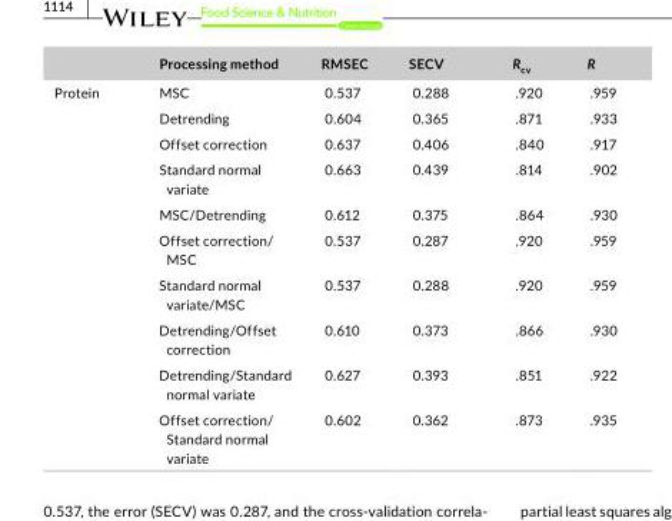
<table><thead><tr><td></td><td>Processing method</td><td>RMSEC</td><td>SECV</td><td>R<sub>cv</sub></td><td>R</td></tr></thead><tbody><tr><td rowspan="10">Protein</td><td>MSC</td><td>0.537</td><td>0.288</td><td>.920</td><td>.959</td></tr><tr><td>Detrending</td><td>0.604</td><td>0.365</td><td>.871</td><td>.933</td></tr><tr><td>Offset correction</td><td>0.637</td><td>0.406</td><td>.840</td><td>.917</td></tr><tr><td>Standard normal variate</td><td>0.663</td><td>0.439</td><td>.814</td><td>.902</td></tr><tr><td>MSC/Detrending</td><td>0.612</td><td>0.375</td><td>.864</td><td>.930</td></tr><tr><td>Offset correction/ MSC</td><td>0.537</td><td>0.287</td><td>.920</td><td>.959</td></tr><tr><td>Standard normal variate/MSC</td><td>0.537</td><td>0.288</td><td>.920</td><td>.959</td></tr><tr><td>Detrending/Offset correction</td><td>0.610</td><td>0.373</td><td>.866</td><td>.930</td></tr><tr><td>Detrending/Standard normal variate</td><td>0.627</td><td>0.393</td><td>.851</td><td>.922</td></tr><tr><td>Offset correction/ Standard normal variate</td><td>0.602</td><td>0.362</td><td>.873</td><td>.935</td></tr></tbody></table>